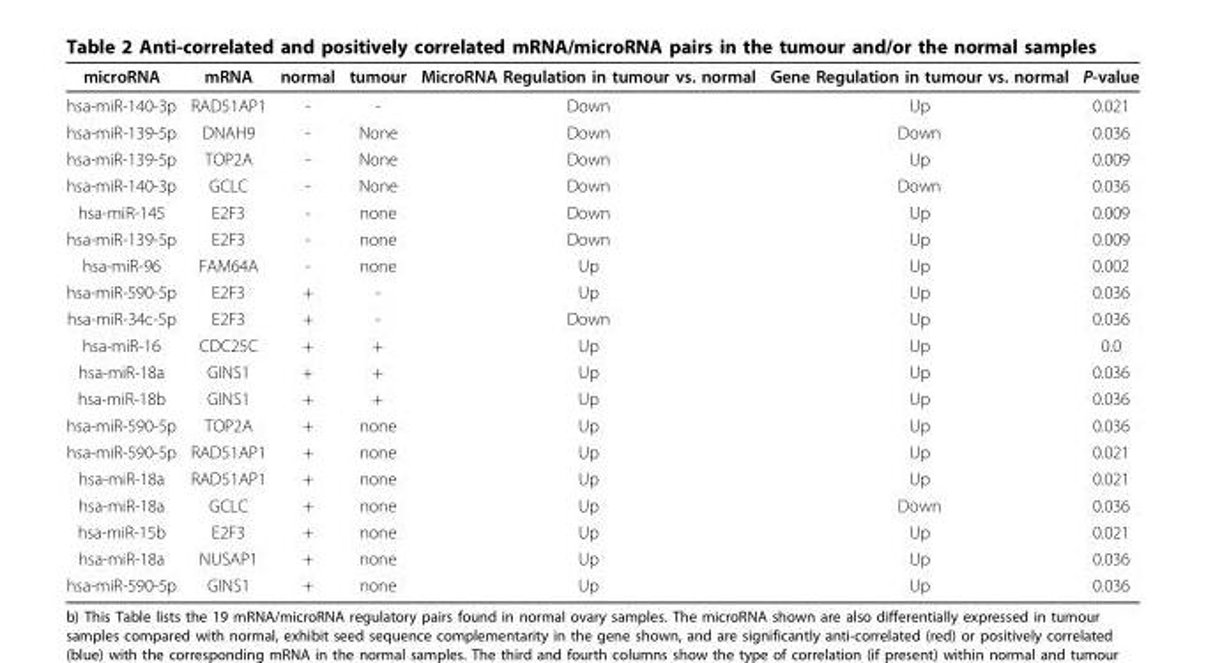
<table><thead><tr><td>microRNA</td><td>mRNA</td><td>normal</td><td>tumour</td><td>MicroRNA Regulation in tumour vs. normal</td><td>Gene Regulation in tumour vs. normal</td><td>P-value</td></tr></thead><tbody><tr><td>hsa-miR-140-3p</td><td>RAD51AP1</td><td>-</td><td>-</td><td>Down</td><td>Up</td><td>0.021</td></tr><tr><td>hsa-miR-139-5p</td><td>DNAH9</td><td>-</td><td>None</td><td>Down</td><td>Down</td><td>0.036</td></tr><tr><td>hsa-miR-139-5p</td><td>TOP2A</td><td>-</td><td>None</td><td>Down</td><td>Up</td><td>0.009</td></tr><tr><td>hsa-miR-140-3p</td><td>GCLC</td><td>-</td><td>None</td><td>Down</td><td>Down</td><td>0.036</td></tr><tr><td>hsa-miR-145</td><td>E2F3</td><td>-</td><td>none</td><td>Down</td><td>Up</td><td>0.009</td></tr><tr><td>hsa-miR-139-5p</td><td>E2F3</td><td>-</td><td>none</td><td>Down</td><td>Up</td><td>0.009</td></tr><tr><td>hsa-miR-96</td><td>FAM64A</td><td>-</td><td>none</td><td>Up</td><td>Up</td><td>0.002</td></tr><tr><td>hsa-miR-590-5p</td><td>E2F3</td><td>+</td><td>-</td><td>Up</td><td>Up</td><td>0.036</td></tr><tr><td>hsa-miR-34c-5p</td><td>E2F3</td><td>+</td><td>-</td><td>Down</td><td>Up</td><td>0.036</td></tr><tr><td>hsa-miR-16</td><td>CDC25C</td><td>+</td><td>+</td><td>Up</td><td>Up</td><td>0.0</td></tr><tr><td>hsa-miR-18a</td><td>GINS1</td><td>+</td><td>+</td><td>Up</td><td>Up</td><td>0.036</td></tr><tr><td>hsa-miR-18b</td><td>GINS1</td><td>+</td><td>+</td><td>Up</td><td>Up</td><td>0.036</td></tr><tr><td>hsa-miR-590-5p</td><td>TOP2A</td><td>+</td><td>none</td><td>Up</td><td>Up</td><td>0.036</td></tr><tr><td>hsa-miR-590-5p</td><td>RAD51AP1</td><td>+</td><td>none</td><td>Up</td><td>Up</td><td>0.021</td></tr><tr><td>hsa-miR-18a</td><td>RAD51AP1</td><td>+</td><td>none</td><td>Up</td><td>Up</td><td>0.021</td></tr><tr><td>hsa-miR-18a</td><td>GCLC</td><td>+</td><td>none</td><td>Up</td><td>Down</td><td>0.036</td></tr><tr><td>hsa-miR-15b</td><td>E2F3</td><td>+</td><td>none</td><td>Up</td><td>Up</td><td>0.021</td></tr><tr><td>hsa-miR-18a</td><td>NUSAP1</td><td>+</td><td>none</td><td>Up</td><td>Up</td><td>0.036</td></tr><tr><td>hsa-miR-590-5p</td><td>GINS1</td><td>+</td><td>none</td><td>Up</td><td>Up</td><td>0.036</td></tr></tbody></table>